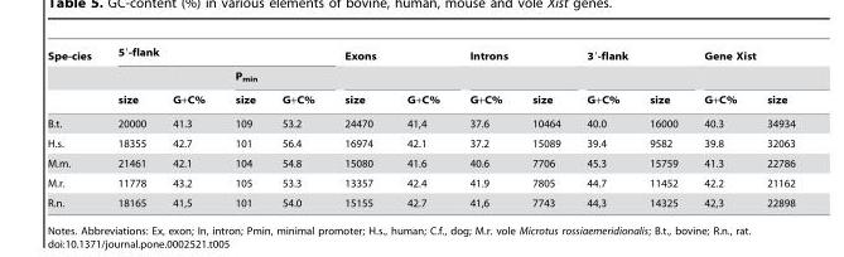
<table><thead><tr><td rowspan="3">Spe-cies</td><td colspan="4">5′-flank</td><td colspan="2">Exons</td><td colspan="2">Introns</td><td colspan="2">3′-flank</td><td colspan="2">Gene Xist</td></tr><tr><td rowspan="2">size</td><td rowspan="2">G+C%</td><td colspan="2">P<sub>min</sub></td><td rowspan="2">size</td><td rowspan="2">G+C%</td><td rowspan="2">G+C%</td><td rowspan="2">size</td><td rowspan="2">G+C%</td><td rowspan="2">size</td><td rowspan="2">G+C%</td><td rowspan="2">size</td></tr><tr><td>size</td><td>G+C%</td></tr></thead><tbody><tr><td>B.t.</td><td>20000</td><td>41.3</td><td>109</td><td>53.2</td><td>24470</td><td>41,4</td><td>37.6</td><td>10464</td><td>40.0</td><td>16000</td><td>40.3</td><td>34934</td></tr><tr><td>H.s.</td><td>18355</td><td>42.7</td><td>101</td><td>56.4</td><td>16974</td><td>42.1</td><td>37.2</td><td>15089</td><td>39.4</td><td>9582</td><td>39.8</td><td>32063</td></tr><tr><td>M.m.</td><td>21461</td><td>42.1</td><td>104</td><td>54.8</td><td>15080</td><td>41.6</td><td>40.6</td><td>7706</td><td>45.3</td><td>15759</td><td>41.3</td><td>22786</td></tr><tr><td>M.r.</td><td>11778</td><td>43.2</td><td>105</td><td>53.3</td><td>13357</td><td>42.4</td><td>41.9</td><td>7805</td><td>44.7</td><td>11452</td><td>42.2</td><td>21162</td></tr><tr><td>R.n.</td><td>18165</td><td>41,5</td><td>101</td><td>54.0</td><td>15155</td><td>42.7</td><td>41,6</td><td>7743</td><td>44,3</td><td>14325</td><td>42,3</td><td>22898</td></tr></tbody></table>